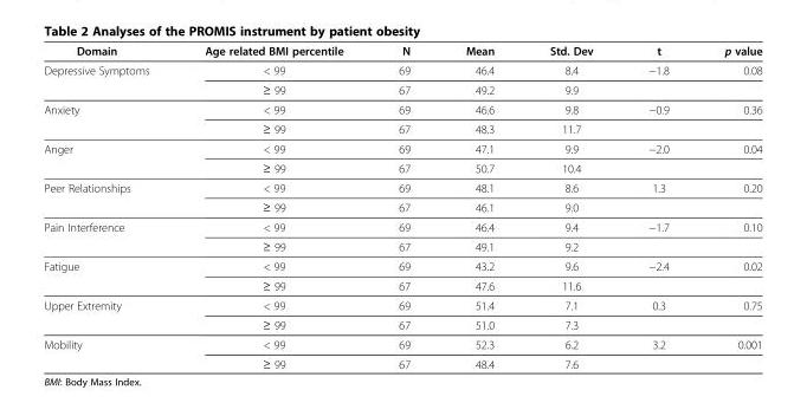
<table><thead><tr><td>Domain</td><td>Age related BMI percentile</td><td>N</td><td>Mean</td><td>Std. Dev</td><td>t</td><td>p value</td></tr></thead><tbody><tr><td rowspan="2">Depressive Symptoms</td><td>&lt; 99</td><td>69</td><td>46.4</td><td>8.4</td><td>−1.8</td><td>0.08</td></tr><tr><td>≥ 99</td><td>67</td><td>49.2</td><td>9.9</td><td></td><td></td></tr><tr><td rowspan="2">Anxiety</td><td>&lt; 99</td><td>69</td><td>46.6</td><td>9.8</td><td>−0.9</td><td>0.36</td></tr><tr><td>≥ 99</td><td>67</td><td>48.3</td><td>11.7</td><td></td><td></td></tr><tr><td rowspan="2">Anger</td><td>&lt; 99</td><td>69</td><td>47.1</td><td>9.9</td><td>−2.0</td><td>0.04</td></tr><tr><td>≥ 99</td><td>67</td><td>50.7</td><td>10.4</td><td></td><td></td></tr><tr><td rowspan="2">Peer Relationships</td><td>&lt; 99</td><td>69</td><td>48.1</td><td>8.6</td><td>1.3</td><td>0.20</td></tr><tr><td>≥ 99</td><td>67</td><td>46.1</td><td>9.0</td><td></td><td></td></tr><tr><td rowspan="2">Pain Interference</td><td>&lt; 99</td><td>69</td><td>46.4</td><td>9.4</td><td>−1.7</td><td>0.10</td></tr><tr><td>≥ 99</td><td>67</td><td>49.1</td><td>9.2</td><td></td><td></td></tr><tr><td rowspan="2">Fatigue</td><td>&lt; 99</td><td>69</td><td>43.2</td><td>9.6</td><td>−2.4</td><td>0.02</td></tr><tr><td>≥ 99</td><td>67</td><td>47.6</td><td>11.6</td><td></td><td></td></tr><tr><td rowspan="2">Upper Extremity</td><td>&lt; 99</td><td>69</td><td>51.4</td><td>7.1</td><td>0.3</td><td>0.75</td></tr><tr><td>≥ 99</td><td>67</td><td>51.0</td><td>7.3</td><td></td><td></td></tr><tr><td rowspan="2">Mobility</td><td>&lt; 99</td><td>69</td><td>52.3</td><td>6.2</td><td>3.2</td><td>0.001</td></tr><tr><td>≥ 99</td><td>67</td><td>48.4</td><td>7.6</td><td></td><td></td></tr></tbody></table>